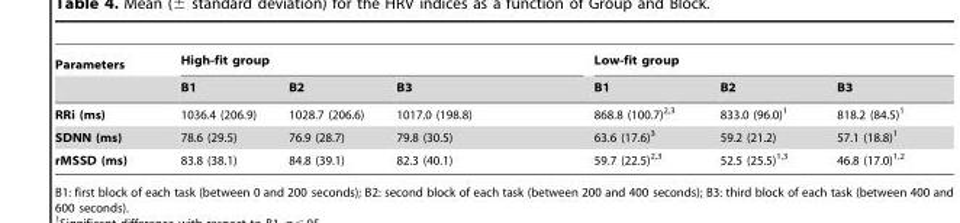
<table><thead><tr><td rowspan="2">Parameters</td><td colspan="3">High-fit group</td><td colspan="3">Low-fit group</td></tr><tr><td>B1</td><td>B2</td><td>B3</td><td>B1</td><td>B2</td><td>B3</td></tr></thead><tbody><tr><td>RRi (ms)</td><td>1036.4 (206.9)</td><td>1028.7 (206.6)</td><td>1017.0 (198.8)</td><td>868.8 (100.7)<sup>2,</sup>3</td><td>833.0 (96.0)<sup>1</sup></td><td>818.2 (84.5)<sup>1</sup></td></tr><tr><td>SDNN (ms)</td><td>78.6 (29.5)</td><td>76.9 (28.7)</td><td>79.8 (30.5)</td><td>63.6 (17.6)<sup>3</sup></td><td>59.2 (21.2)</td><td>57.1 (18.8)<sup>1</sup></td></tr><tr><td>rMSSD (ms)</td><td>83.8 (38.1)</td><td>84.8 (39.1)</td><td>82.3 (40.1)</td><td>59.7 (22.5)<sup>2,</sup>3</td><td>52.5 (25.5)<sup>1,</sup>3</td><td>46.8 (17.0)<sup>1,</sup>2</td></tr></tbody></table>